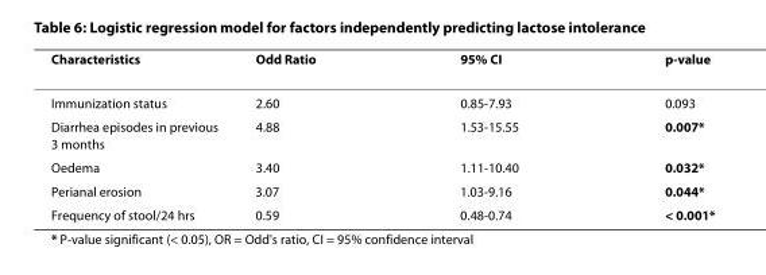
<table><thead><tr><td>Characteristics</td><td>Odd Ratio</td><td>95% CI</td><td>p-value</td></tr></thead><tbody><tr><td>Immunization status</td><td>2.60</td><td>0.85-7.93</td><td>0.093</td></tr><tr><td>Diarrhea episodes in previous 3 months</td><td>4.88</td><td>1.53-15.55</td><td>0.007*</td></tr><tr><td>Oedema</td><td>3.40</td><td>1.11-10.40</td><td>0.032*</td></tr><tr><td>Perianal erosion</td><td>3.07</td><td>1.03-9.16</td><td>0.044*</td></tr><tr><td>Frequency of stool/24 hrs</td><td>0.59</td><td>0.48-0.74</td><td>&lt; 0.001*</td></tr></tbody></table>